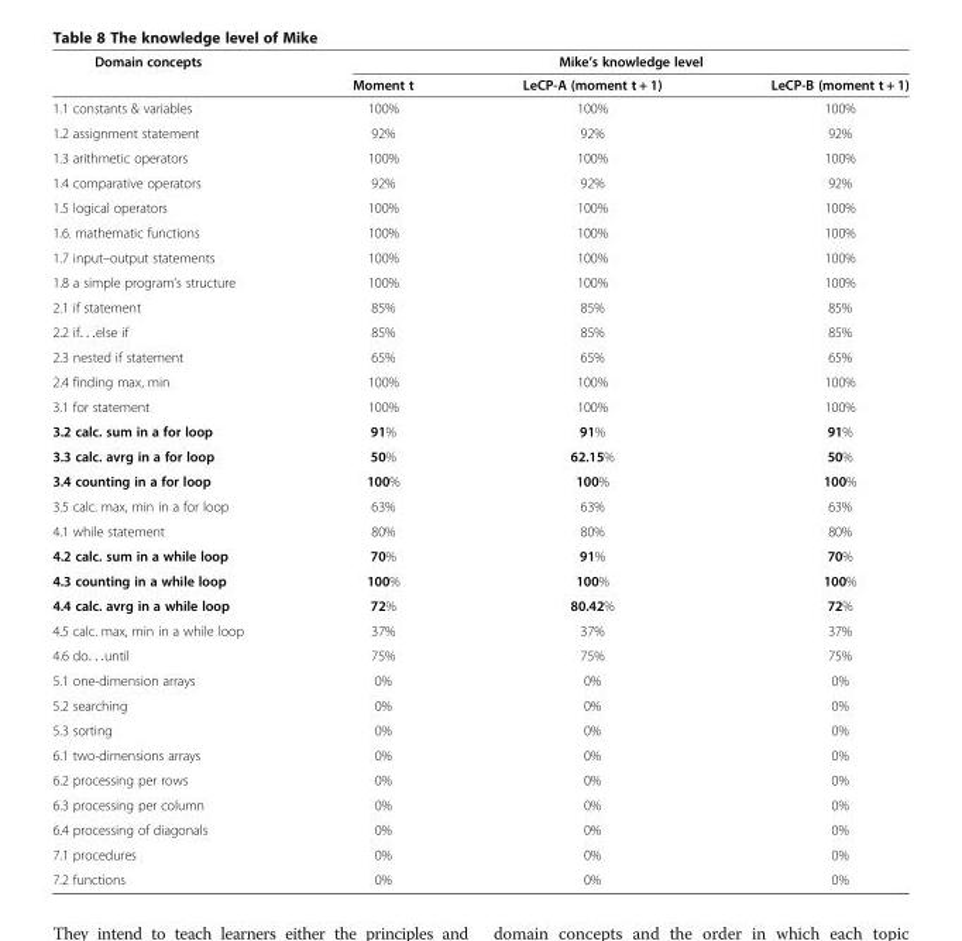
<table><thead><tr><td rowspan="2">Domain concepts</td><td colspan="3">Mike’s knowledge level</td></tr><tr><td>Moment t</td><td>LeCP-A (moment t + 1)</td><td>LeCP-B (moment t + 1)</td></tr></thead><tbody><tr><td>1.1 constants &amp; variables</td><td>100%</td><td>100%</td><td>100%</td></tr><tr><td>1.2 assignment statement</td><td>92%</td><td>92%</td><td>92%</td></tr><tr><td>1.3 arithmetic operators</td><td>100%</td><td>100%</td><td>100%</td></tr><tr><td>1.4 comparative operators</td><td>92%</td><td>92%</td><td>92%</td></tr><tr><td>1.5 logical operators</td><td>100%</td><td>100%</td><td>100%</td></tr><tr><td>1.6. mathematic functions</td><td>100%</td><td>100%</td><td>100%</td></tr><tr><td>1.7 input–output statements</td><td>100%</td><td>100%</td><td>100%</td></tr><tr><td>1.8 a simple program’s structure</td><td>100%</td><td>100%</td><td>100%</td></tr><tr><td>2.1 if statement</td><td>85%</td><td>85%</td><td>85%</td></tr><tr><td>2.2 if. . .else if</td><td>85%</td><td>85%</td><td>85%</td></tr><tr><td>2.3 nested if statement</td><td>65%</td><td>65%</td><td>65%</td></tr><tr><td>2.4 finding max, min</td><td>100%</td><td>100%</td><td>100%</td></tr><tr><td>3.1 for statement</td><td>100%</td><td>100%</td><td>100%</td></tr><tr><td>3.2 calc. sum in a for loop</td><td>91%</td><td>91%</td><td>91%</td></tr><tr><td>3.3 calc. avrg in a for loop</td><td>50%</td><td>62.15%</td><td>50%</td></tr><tr><td>3.4 counting in a for loop</td><td>100%</td><td>100%</td><td>100%</td></tr><tr><td>3.5 calc. max, min in a for loop</td><td>63%</td><td>63%</td><td>63%</td></tr><tr><td>4.1 while statement</td><td>80%</td><td>80%</td><td>80%</td></tr><tr><td>4.2 calc. sum in a while loop</td><td>70%</td><td>91%</td><td>70%</td></tr><tr><td>4.3 counting in a while loop</td><td>100%</td><td>100%</td><td>100%</td></tr><tr><td>4.4 calc. avrg in a while loop</td><td>72%</td><td>80.42%</td><td>72%</td></tr><tr><td>4.5 calc. max, min in a while loop</td><td>37%</td><td>37%</td><td>37%</td></tr><tr><td>4.6 do. . .until</td><td>75%</td><td>75%</td><td>75%</td></tr><tr><td>5.1 one-dimension arrays</td><td>0%</td><td>0%</td><td>0%</td></tr><tr><td>5.2 searching</td><td>0%</td><td>0%</td><td>0%</td></tr><tr><td>5.3 sorting</td><td>0%</td><td>0%</td><td>0%</td></tr><tr><td>6.1 two-dimensions arrays</td><td>0%</td><td>0%</td><td>0%</td></tr><tr><td>6.2 processing per rows</td><td>0%</td><td>0%</td><td>0%</td></tr><tr><td>6.3 processing per column</td><td>0%</td><td>0%</td><td>0%</td></tr><tr><td>6.4 processing of diagonals</td><td>0%</td><td>0%</td><td>0%</td></tr><tr><td>7.1 procedures</td><td>0%</td><td>0%</td><td>0%</td></tr><tr><td>7.2 functions</td><td>0%</td><td>0%</td><td>0%</td></tr></tbody></table>